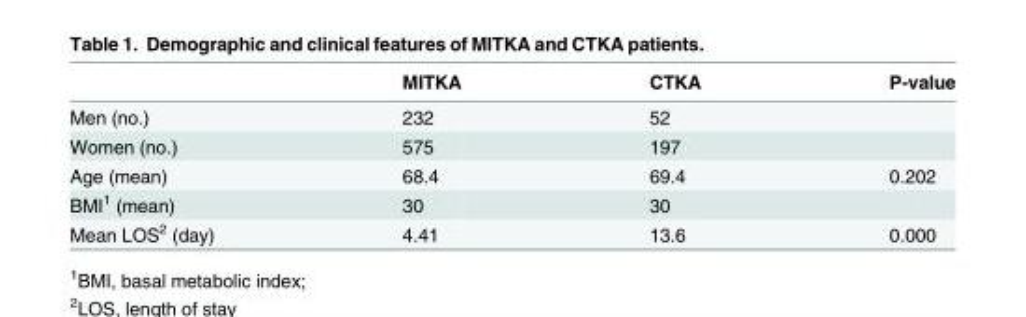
<table><thead><tr><td></td><td>MITKA</td><td>CTKA</td><td>P-value</td></tr></thead><tbody><tr><td>Men (no.)</td><td>232</td><td>52</td><td></td></tr><tr><td>Women (no.)</td><td>575</td><td>197</td><td></td></tr><tr><td>Age (mean)</td><td>68.4</td><td>69.4</td><td>0.202</td></tr><tr><td>BMI<sup>1</sup> (mean)</td><td>30</td><td>30</td><td></td></tr><tr><td>Mean LOS<sup>2</sup> (day)</td><td>4.41</td><td>13.6</td><td>0.000</td></tr></tbody></table>